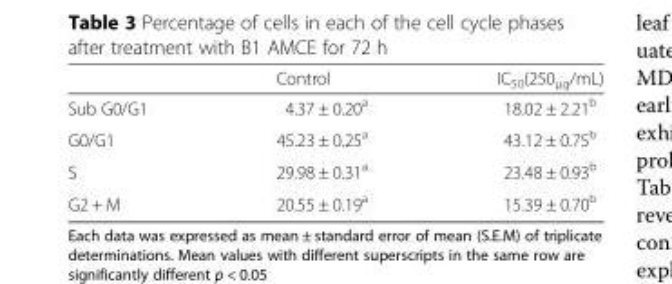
<table><thead><tr><td></td><td>Control</td><td>IC<sub>50</sub>(250<sub>μg</sub>/mL)</td></tr></thead><tbody><tr><td>Sub G0/G1</td><td>4.37 ± 0.20<sup>a</sup></td><td>18.02 ± 2.21<sup>b</sup></td></tr><tr><td>G0/G1</td><td>45.23 ± 0.25<sup>a</sup></td><td>43.12 ± 0.75<sup>b</sup></td></tr><tr><td>S</td><td>29.98 ± 0.31<sup>a</sup></td><td>23.48 ± 0.93<sup>b</sup></td></tr><tr><td>G2 + M</td><td>20.55 ± 0.19<sup>a</sup></td><td>15.39 ± 0.70<sup>b</sup></td></tr></tbody></table>